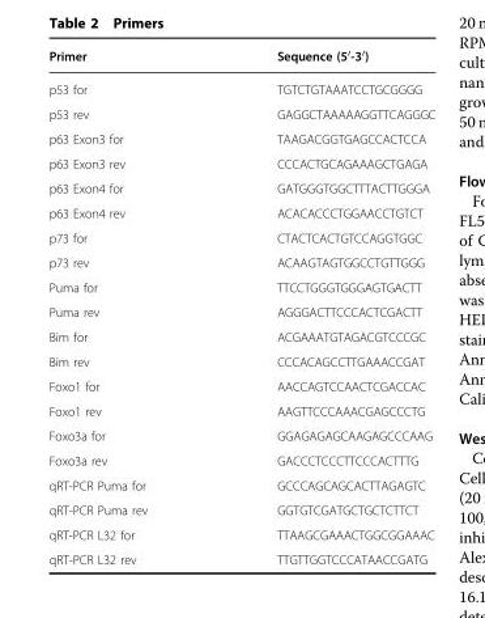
<table><thead><tr><td>Primer</td><td>Sequence (5′-3′)</td></tr></thead><tbody><tr><td>p53 for</td><td>TGTCTGTAAATCCTGCGGGG</td></tr><tr><td>p53 rev</td><td>GAGGCTAAAAAGGTTCAGGGC</td></tr><tr><td>p63 Exon3 for</td><td>TAAGACGGTGAGCCACTCCA</td></tr><tr><td>p63 Exon3 rev</td><td>CCCACTGCAGAAAGCTGAGA</td></tr><tr><td>p63 Exon4 for</td><td>GATGGGTGGCTTTACTTGGGA</td></tr><tr><td>p63 Exon4 rev</td><td>ACACACCCTGGAACCTGTCT</td></tr><tr><td>p73 for</td><td>CTACTCACTGTCCAGGTGGC</td></tr><tr><td>p73 rev</td><td>ACAAGTAGTGGCCTGTTGGG</td></tr><tr><td>Puma for</td><td>TTCCTGGGTGGGAGTGACTT</td></tr><tr><td>Puma rev</td><td>AGGGACTTCCCACTCGACTT</td></tr><tr><td>Bim for</td><td>ACGAAATGTAGACGTCCCGC</td></tr><tr><td>Bim rev</td><td>CCCACAGCCTTGAAACCGAT</td></tr><tr><td>Foxo1 for</td><td>AACCAGTCCAACTCGACCAC</td></tr><tr><td>Foxo1 rev</td><td>AAGTTCCCAAACGAGCCCTG</td></tr><tr><td>Foxo3a for</td><td>GGAGAGAGCAAGAGCCCAAG</td></tr><tr><td>Foxo3a rev</td><td>GACCCTCCCTTCCCACTTTG</td></tr><tr><td>qRT-PCR Puma for</td><td>GCCCAGCAGCACTTAGAGTC</td></tr><tr><td>qRT-PCR Puma rev</td><td>GGTGTCGATGCTGCTCTTCT</td></tr><tr><td>qRT-PCR L32 for</td><td>TTAAGCGAAACTGGCGGAAAC</td></tr><tr><td>qRT-PCR L32 rev</td><td>TTGTTGGTCCCATAACCGATG</td></tr></tbody></table>